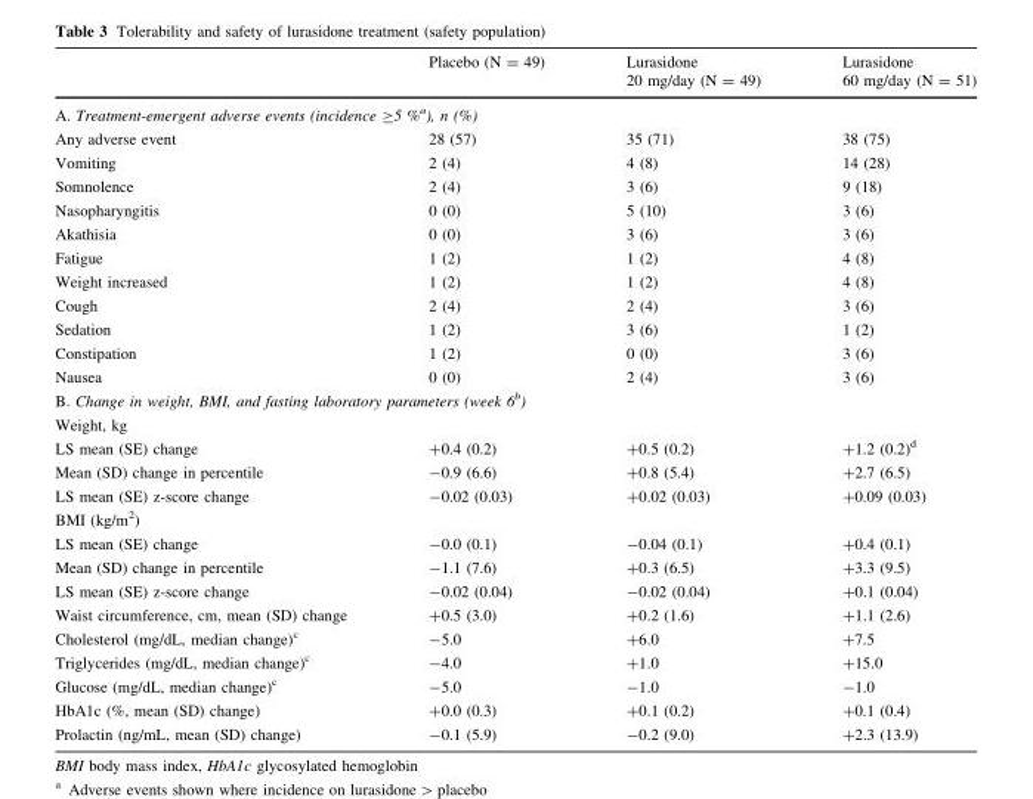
<table><thead><tr><td></td><td>Placebo (N = 49)</td><td>Lurasidone 20 mg/day (N = 49)</td><td>Lurasidone 60 mg/day (N = 51)</td></tr></thead><tbody><tr><td colspan="4">A. Treatment-emergent adverse events (incidence ≥5 %<sup>a</sup>), n (%)</td></tr><tr><td>Any adverse event</td><td>28 (57)</td><td>35 (71)</td><td>38 (75)</td></tr><tr><td>Vomiting</td><td>2 (4)</td><td>4 (8)</td><td>14 (28)</td></tr><tr><td>Somnolence</td><td>2 (4)</td><td>3 (6)</td><td>9 (18)</td></tr><tr><td>Nasopharyngitis</td><td>0 (0)</td><td>5 (10)</td><td>3 (6)</td></tr><tr><td>Akathisia</td><td>0 (0)</td><td>3 (6)</td><td>3 (6)</td></tr><tr><td>Fatigue</td><td>1 (2)</td><td>1 (2)</td><td>4 (8)</td></tr><tr><td>Weight increased</td><td>1 (2)</td><td>1 (2)</td><td>4 (8)</td></tr><tr><td>Cough</td><td>2 (4)</td><td>2 (4)</td><td>3 (6)</td></tr><tr><td>Sedation</td><td>1 (2)</td><td>3 (6)</td><td>1 (2)</td></tr><tr><td>Constipation</td><td>1 (2)</td><td>0 (0)</td><td>3 (6)</td></tr><tr><td>Nausea</td><td>0 (0)</td><td>2 (4)</td><td>3 (6)</td></tr><tr><td colspan="4">B. Change in weight, BMI, and fasting laboratory parameters (week 6<sup>b</sup>)</td></tr><tr><td colspan="4">Weight, kg</td></tr><tr><td>LS mean (SE) change</td><td>+0.4 (0.2)</td><td>+0.5 (0.2)</td><td>+1.2 (0.2)<sup>d</sup></td></tr><tr><td>Mean (SD) change in percentile</td><td>-0.9 (6.6)</td><td>+0.8 (5.4)</td><td>+2.7 (6.5)</td></tr><tr><td>LS mean (SE) z-score change</td><td>-0.02 (0.03)</td><td>+0.02 (0.03)</td><td>+0.09 (0.03)</td></tr><tr><td colspan="4">BMI (kg/m<sup>2</sup>)</td></tr><tr><td>LS mean (SE) change</td><td>-0.0 (0.1)</td><td>-0.04 (0.1)</td><td>+0.4 (0.1)</td></tr><tr><td>Mean (SD) change in percentile</td><td>-1.1 (7.6)</td><td>+0.3 (6.5)</td><td>+3.3 (9.5)</td></tr><tr><td>LS mean (SE) z-score change</td><td>-0.02 (0.04)</td><td>-0.02 (0.04)</td><td>+0.1 (0.04)</td></tr><tr><td>Waist circumference, cm, mean (SD) change</td><td>+0.5 (3.0)</td><td>+0.2 (1.6)</td><td>+1.1 (2.6)</td></tr><tr><td>Cholesterol (mg/dL, median change)<sup>c</sup></td><td>-5.0</td><td>+6.0</td><td>+7.5</td></tr><tr><td>Triglycerides (mg/dL, median change)<sup>c</sup></td><td>-4.0</td><td>+1.0</td><td>+15.0</td></tr><tr><td>Glucose (mg/dL, median change)<sup>c</sup></td><td>-5.0</td><td>-1.0</td><td>-1.0</td></tr><tr><td>HbA1c (%, mean (SD) change)</td><td>+0.0 (0.3)</td><td>+0.1 (0.2)</td><td>+0.1 (0.4)</td></tr><tr><td>Prolactin (ng/mL, mean (SD) change)</td><td>-0.1 (5.9)</td><td>-0.2 (9.0)</td><td>+2.3 (13.9)</td></tr></tbody></table>